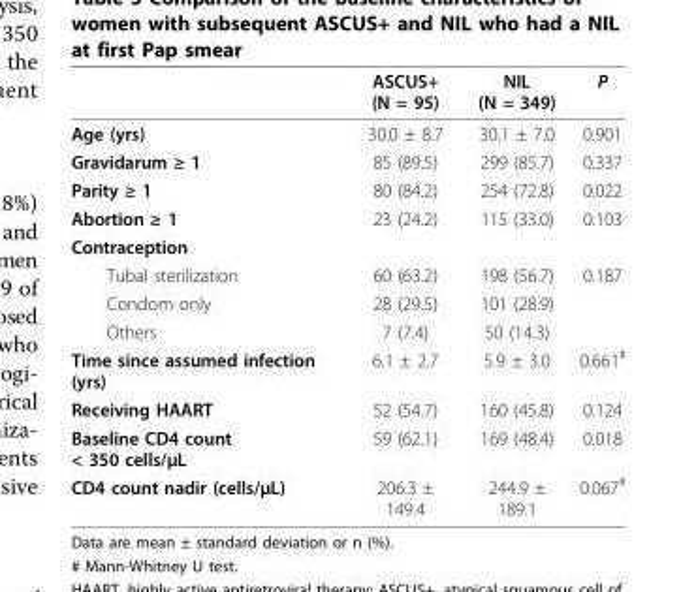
<table><thead><tr><td></td><td>ASCUS+ (N = 95)</td><td>NIL (N = 349)</td><td>P</td></tr></thead><tbody><tr><td>Age (yrs)</td><td>30.0 ± 8.7</td><td>30.1 ± 7.0</td><td>0.901</td></tr><tr><td>Gravidarum ≥ 1</td><td>85 (89.5)</td><td>299 (85.7)</td><td>0.337</td></tr><tr><td>Parity ≥ 1</td><td>80 (84.2)</td><td>254 (72.8)</td><td>0.022</td></tr><tr><td>Abortion ≥ 1</td><td>23 (24.2)</td><td>115 (33.0)</td><td>0.103</td></tr><tr><td colspan="4">Contraception</td></tr><tr><td>Tubal sterilization</td><td>60 (63.2)</td><td>198 (56.7)</td><td>0.187</td></tr><tr><td>Condom only</td><td>28 (29.5)</td><td>101 (28.9)</td><td></td></tr><tr><td>Others</td><td>7 (7.4)</td><td>50 (14.3)</td><td></td></tr><tr><td>Time since assumed infection (yrs)</td><td>6.1 ± 2.7</td><td>5.9 ± 3.0</td><td>0.661<sup>#</sup></td></tr><tr><td>Receiving HAART</td><td>52 (54.7)</td><td>160 (45.8)</td><td>0.124</td></tr><tr><td>Baseline CD4 count &lt; 350 cells/μL</td><td>59 (62.1)</td><td>169 (48.4)</td><td>0.018</td></tr><tr><td>CD4 count nadir (cells/μL)</td><td>206.3 ± 149.4</td><td>244.9 ± 189.1</td><td>0.067<sup>#</sup></td></tr></tbody></table>